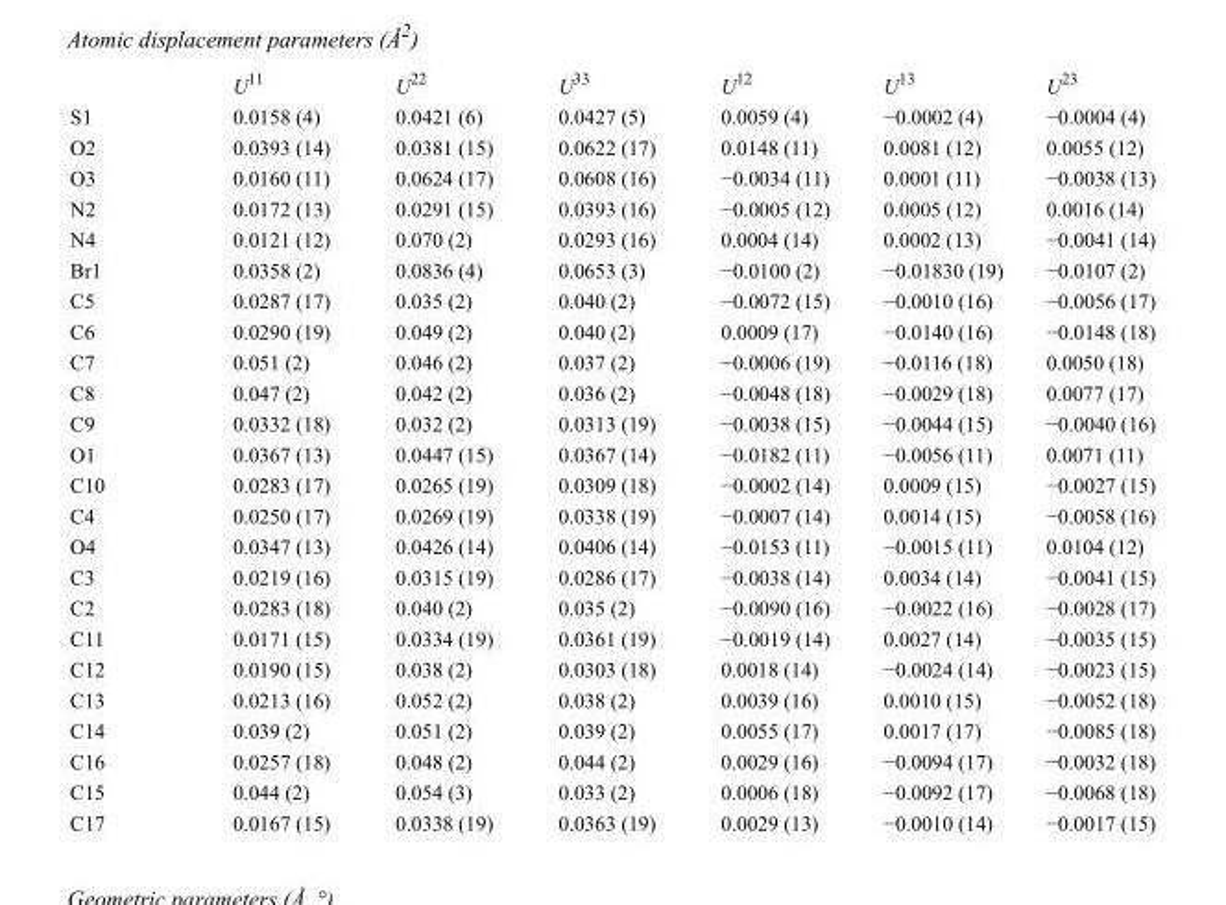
<table><thead><tr><td></td><td>U<sup>11</sup></td><td>U<sup>22</sup></td><td>U<sup>33</sup></td><td>U<sup>12</sup></td><td>U<sup>13</sup></td><td>U<sup>23</sup></td></tr></thead><tbody><tr><td>S1</td><td>0.0158 (4)</td><td>0.0421 (6)</td><td>0.0427 (5)</td><td>0.0059 (4)</td><td>−0.0002 (4)</td><td>−0.0004 (4)</td></tr><tr><td>O2</td><td>0.0393 (14)</td><td>0.0381 (15)</td><td>0.0622 (17)</td><td>0.0148 (11)</td><td>0.0081 (12)</td><td>0.0055 (12)</td></tr><tr><td>O3</td><td>0.0160 (11)</td><td>0.0624 (17)</td><td>0.0608 (16)</td><td>−0.0034 (11)</td><td>0.0001 (11)</td><td>−0.0038 (13)</td></tr><tr><td>N2</td><td>0.0172 (13)</td><td>0.0291 (15)</td><td>0.0393 (16)</td><td>−0.0005 (12)</td><td>0.0005 (12)</td><td>0.0016 (14)</td></tr><tr><td>N4</td><td>0.0121 (12)</td><td>0.070 (2)</td><td>0.0293 (16)</td><td>0.0004 (14)</td><td>0.0002 (13)</td><td>−0.0041 (14)</td></tr><tr><td>Br1</td><td>0.0358 (2)</td><td>0.0836 (4)</td><td>0.0653 (3)</td><td>−0.0100 (2)</td><td>−0.01830 (19)</td><td>−0.0107 (2)</td></tr><tr><td>C5</td><td>0.0287 (17)</td><td>0.035 (2)</td><td>0.040 (2)</td><td>−0.0072 (15)</td><td>−0.0010 (16)</td><td>−0.0056 (17)</td></tr><tr><td>C6</td><td>0.0290 (19)</td><td>0.049 (2)</td><td>0.040 (2)</td><td>0.0009 (17)</td><td>−0.0140 (16)</td><td>−0.0148 (18)</td></tr><tr><td>C7</td><td>0.051 (2)</td><td>0.046 (2)</td><td>0.037 (2)</td><td>−0.0006 (19)</td><td>−0.0116 (18)</td><td>0.0050 (18)</td></tr><tr><td>C8</td><td>0.047 (2)</td><td>0.042 (2)</td><td>0.036 (2)</td><td>−0.0048 (18)</td><td>−0.0029 (18)</td><td>0.0077 (17)</td></tr><tr><td>C9</td><td>0.0332 (18)</td><td>0.032 (2)</td><td>0.0313 (19)</td><td>−0.0038 (15)</td><td>−0.0044 (15)</td><td>−0.0040 (16)</td></tr><tr><td>O1</td><td>0.0367 (13)</td><td>0.0447 (15)</td><td>0.0367 (14)</td><td>−0.0182 (11)</td><td>−0.0056 (11)</td><td>0.0071 (11)</td></tr><tr><td>C10</td><td>0.0283 (17)</td><td>0.0265 (19)</td><td>0.0309 (18)</td><td>−0.0002 (14)</td><td>0.0009 (15)</td><td>−0.0027 (15)</td></tr><tr><td>C4</td><td>0.0250 (17)</td><td>0.0269 (19)</td><td>0.0338 (19)</td><td>−0.0007 (14)</td><td>0.0014 (15)</td><td>−0.0058 (16)</td></tr><tr><td>O4</td><td>0.0347 (13)</td><td>0.0426 (14)</td><td>0.0406 (14)</td><td>−0.0153 (11)</td><td>−0.0015 (11)</td><td>0.0104 (12)</td></tr><tr><td>C3</td><td>0.0219 (16)</td><td>0.0315 (19)</td><td>0.0286 (17)</td><td>−0.0038 (14)</td><td>0.0034 (14)</td><td>−0.0041 (15)</td></tr><tr><td>C2</td><td>0.0283 (18)</td><td>0.040 (2)</td><td>0.035 (2)</td><td>−0.0090 (16)</td><td>−0.0022 (16)</td><td>−0.0028 (17)</td></tr><tr><td>C11</td><td>0.0171 (15)</td><td>0.0334 (19)</td><td>0.0361 (19)</td><td>−0.0019 (14)</td><td>0.0027 (14)</td><td>−0.0035 (15)</td></tr><tr><td>C12</td><td>0.0190 (15)</td><td>0.038 (2)</td><td>0.0303 (18)</td><td>0.0018 (14)</td><td>−0.0024 (14)</td><td>−0.0023 (15)</td></tr><tr><td>C13</td><td>0.0213 (16)</td><td>0.052 (2)</td><td>0.038 (2)</td><td>0.0039 (16)</td><td>0.0010 (15)</td><td>−0.0052 (18)</td></tr><tr><td>C14</td><td>0.039 (2)</td><td>0.051 (2)</td><td>0.039 (2)</td><td>0.0055 (17)</td><td>0.0017 (17)</td><td>−0.0085 (18)</td></tr><tr><td>C16</td><td>0.0257 (18)</td><td>0.048 (2)</td><td>0.044 (2)</td><td>0.0029 (16)</td><td>−0.0094 (17)</td><td>−0.0032 (18)</td></tr><tr><td>C15</td><td>0.044 (2)</td><td>0.054 (3)</td><td>0.033 (2)</td><td>0.0006 (18)</td><td>−0.0092 (17)</td><td>−0.0068 (18)</td></tr><tr><td>C17</td><td>0.0167 (15)</td><td>0.0338 (19)</td><td>0.0363 (19)</td><td>0.0029 (13)</td><td>−0.0010 (14)</td><td>−0.0017 (15)</td></tr></tbody></table>